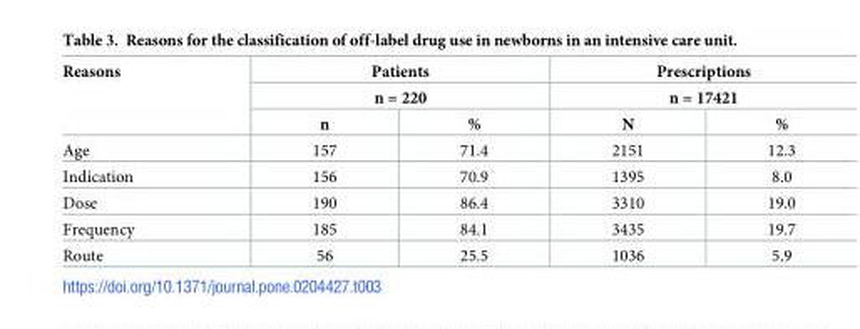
<table><thead><tr><td rowspan="3">Reasons</td><td rowspan="2" colspan="2">Patients n = 220</td><td rowspan="2" colspan="2">Prescriptions n = 17421</td></tr><tr></tr><tr><td>n</td><td>%</td><td>N</td><td>%</td></tr></thead><tbody><tr><td>Age</td><td>157</td><td>71.4</td><td>2151</td><td>12.3</td></tr><tr><td>Indication</td><td>156</td><td>70.9</td><td>1395</td><td>8.0</td></tr><tr><td>Dose</td><td>190</td><td>86.4</td><td>3310</td><td>19.0</td></tr><tr><td>Frequency</td><td>185</td><td>84.1</td><td>3435</td><td>19.7</td></tr><tr><td>Route</td><td>56</td><td>25.5</td><td>1036</td><td>5.9</td></tr></tbody></table>